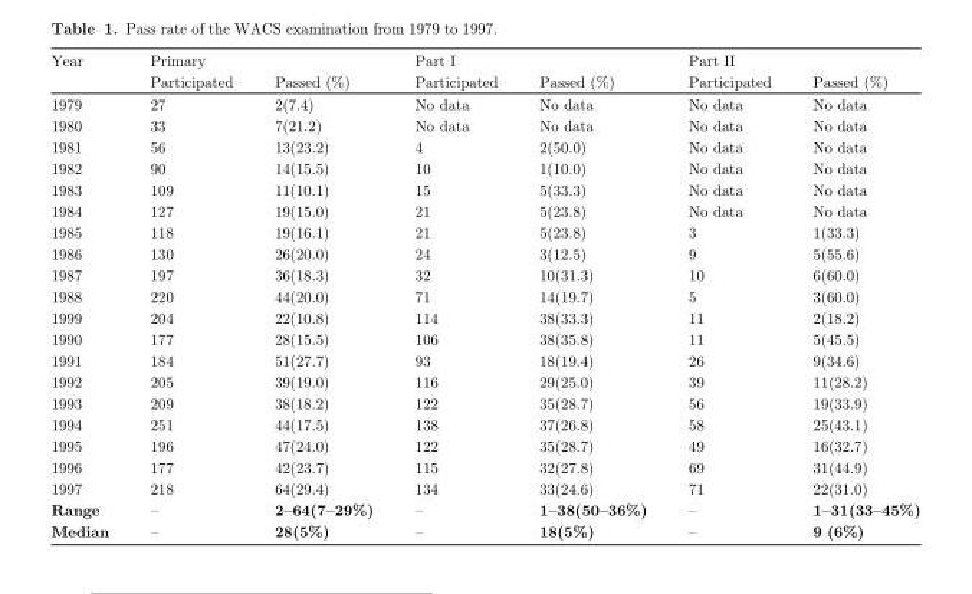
<table><thead><tr><td rowspan="2">Year</td><td colspan="2">Primary</td><td colspan="2">Part I</td><td colspan="2">Part II</td></tr><tr><td>Participated</td><td>Passed (%)</td><td>Participated</td><td>Passed (%)</td><td>Participated</td><td>Passed (%)</td></tr></thead><tbody><tr><td>1979</td><td>27</td><td>2(7.4)</td><td>No data</td><td>No data</td><td>No data</td><td>No data</td></tr><tr><td>1980</td><td>33</td><td>7(21.2)</td><td>No data</td><td>No data</td><td>No data</td><td>No data</td></tr><tr><td>1981</td><td>56</td><td>13(23.2)</td><td>4</td><td>2(50.0)</td><td>No data</td><td>No data</td></tr><tr><td>1982</td><td>90</td><td>14(15.5)</td><td>10</td><td>1(10.0)</td><td>No data</td><td>No data</td></tr><tr><td>1983</td><td>109</td><td>11(10.1)</td><td>15</td><td>5(33.3)</td><td>No data</td><td>No data</td></tr><tr><td>1984</td><td>127</td><td>19(15.0)</td><td>21</td><td>5(23.8)</td><td>No data</td><td>No data</td></tr><tr><td>1985</td><td>118</td><td>19(16.1)</td><td>21</td><td>5(23.8)</td><td>3</td><td>1(33.3)</td></tr><tr><td>1986</td><td>130</td><td>26(20.0)</td><td>24</td><td>3(12.5)</td><td>9</td><td>5(55.6)</td></tr><tr><td>1987</td><td>197</td><td>36(18.3)</td><td>32</td><td>10(31.3)</td><td>10</td><td>6(60.0)</td></tr><tr><td>1988</td><td>220</td><td>44(20.0)</td><td>71</td><td>14(19.7)</td><td>5</td><td>3(60.0)</td></tr><tr><td>1999</td><td>204</td><td>22(10.8)</td><td>114</td><td>38(33.3)</td><td>11</td><td>2(18.2)</td></tr><tr><td>1990</td><td>177</td><td>28(15.5)</td><td>106</td><td>38(35.8)</td><td>11</td><td>5(45.5)</td></tr><tr><td>1991</td><td>184</td><td>51(27.7)</td><td>93</td><td>18(19.4)</td><td>26</td><td>9(34.6)</td></tr><tr><td>1992</td><td>205</td><td>39(19.0)</td><td>116</td><td>29(25.0)</td><td>39</td><td>11(28.2)</td></tr><tr><td>1993</td><td>209</td><td>38(18.2)</td><td>122</td><td>35(28.7)</td><td>56</td><td>19(33.9)</td></tr><tr><td>1994</td><td>251</td><td>44(17.5)</td><td>138</td><td>37(26.8)</td><td>58</td><td>25(43.1)</td></tr><tr><td>1995</td><td>196</td><td>47(24.0)</td><td>122</td><td>35(28.7)</td><td>49</td><td>16(32.7)</td></tr><tr><td>1996</td><td>177</td><td>42(23.7)</td><td>115</td><td>32(27.8)</td><td>69</td><td>31(44.9)</td></tr><tr><td>1997</td><td>218</td><td>64(29.4)</td><td>134</td><td>33(24.6)</td><td>71</td><td>22(31.0)</td></tr><tr><td>Range</td><td>–</td><td>2–64(7–29%)</td><td>–</td><td>1–38(50–36%)</td><td>–</td><td>1–31(33–45%)</td></tr><tr><td>Median</td><td>–</td><td>28(5%)</td><td>–</td><td>18(5%)</td><td>–</td><td>9 (6%)</td></tr></tbody></table>